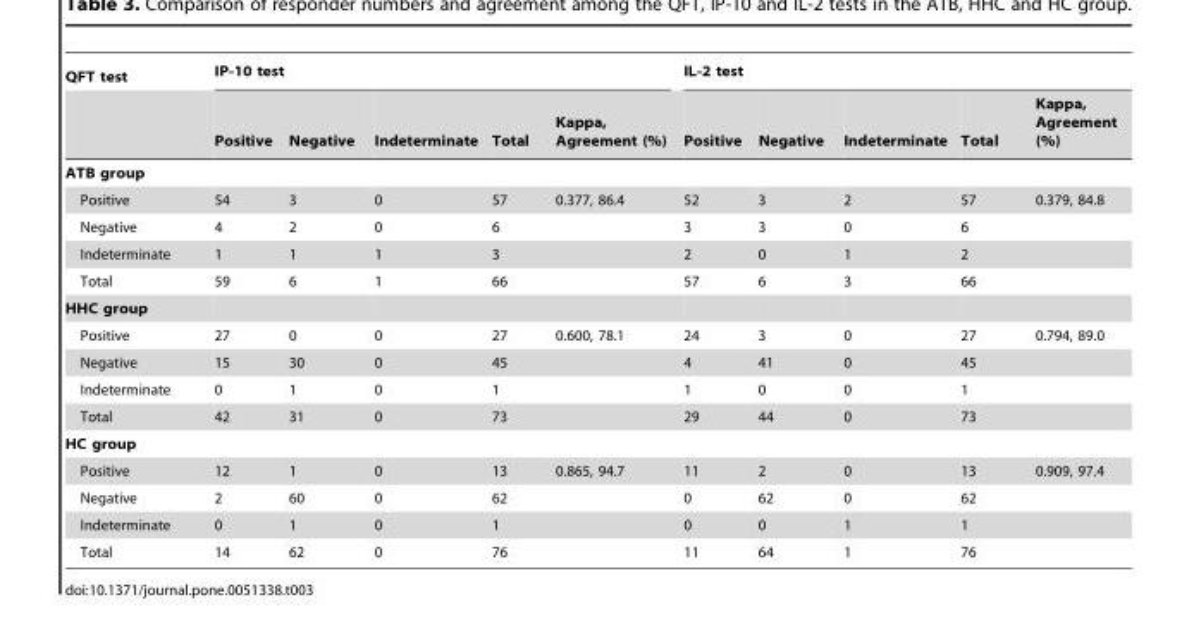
<table><thead><tr><td rowspan="2">QFT test</td><td colspan="5">IP-10 test</td><td colspan="5">IL-2 test</td></tr><tr><td>Positive</td><td>Negative</td><td>Indeterminate</td><td>Total</td><td>Kappa, Agreement (%)</td><td>Positive</td><td>Negative</td><td>Indeterminate</td><td>Total</td><td>Kappa, Agreement (%)</td></tr></thead><tbody><tr><td colspan="11">ATB group</td></tr><tr><td>Positive</td><td>54</td><td>3</td><td>0</td><td>57</td><td>0.377, 86.4</td><td>52</td><td>3</td><td>2</td><td>57</td><td>0.379, 84.8</td></tr><tr><td>Negative</td><td>4</td><td>2</td><td>0</td><td>6</td><td></td><td>3</td><td>3</td><td>0</td><td>6</td><td></td></tr><tr><td>Indeterminate</td><td>1</td><td>1</td><td>1</td><td>3</td><td></td><td>2</td><td>0</td><td>1</td><td>2</td><td></td></tr><tr><td>Total</td><td>59</td><td>6</td><td>1</td><td>66</td><td></td><td>57</td><td>6</td><td>3</td><td>66</td><td></td></tr><tr><td colspan="11">HHC group</td></tr><tr><td>Positive</td><td>27</td><td>0</td><td>0</td><td>27</td><td>0.600, 78.1</td><td>24</td><td>3</td><td>0</td><td>27</td><td>0.794, 89.0</td></tr><tr><td>Negative</td><td>15</td><td>30</td><td>0</td><td>45</td><td></td><td>4</td><td>41</td><td>0</td><td>45</td><td></td></tr><tr><td>Indeterminate</td><td>0</td><td>1</td><td>0</td><td>1</td><td></td><td>1</td><td>0</td><td>0</td><td>1</td><td></td></tr><tr><td>Total</td><td>42</td><td>31</td><td>0</td><td>73</td><td></td><td>29</td><td>44</td><td>0</td><td>73</td><td></td></tr><tr><td colspan="11">HC group</td></tr><tr><td>Positive</td><td>12</td><td>1</td><td>0</td><td>13</td><td>0.865, 94.7</td><td>11</td><td>2</td><td>0</td><td>13</td><td>0.909, 97.4</td></tr><tr><td>Negative</td><td>2</td><td>60</td><td>0</td><td>62</td><td></td><td>0</td><td>62</td><td>0</td><td>62</td><td></td></tr><tr><td>Indeterminate</td><td>0</td><td>1</td><td>0</td><td>1</td><td></td><td>0</td><td>0</td><td>1</td><td>1</td><td></td></tr><tr><td>Total</td><td>14</td><td>62</td><td>0</td><td>76</td><td></td><td>11</td><td>64</td><td>1</td><td>76</td><td></td></tr></tbody></table>